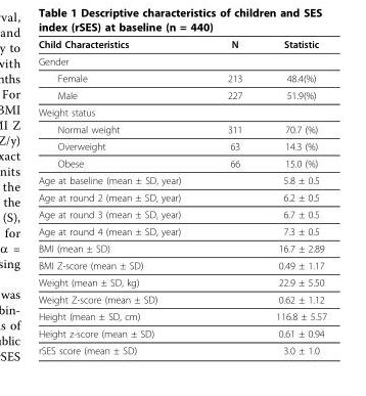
<table><thead><tr><td>Child Characteristics</td><td>N</td><td>Statistic</td></tr></thead><tbody><tr><td colspan="3">Gender</td></tr><tr><td>Female</td><td>213</td><td>48.4(%)</td></tr><tr><td>Male</td><td>227</td><td>51.9(%)</td></tr><tr><td colspan="3">Weight status</td></tr><tr><td>Normal weight</td><td>311</td><td>70.7 (%)</td></tr><tr><td>Overweight</td><td>63</td><td>14.3 (%)</td></tr><tr><td>Obese</td><td>66</td><td>15.0 (%)</td></tr><tr><td>Age at baseline (mean ± SD, year)</td><td></td><td>5.8 ± 0.5</td></tr><tr><td>Age at round 2 (mean ± SD, year)</td><td></td><td>6.2 ± 0.5</td></tr><tr><td>Age at round 3 (mean ± SD, year)</td><td></td><td>6.7 ± 0.5</td></tr><tr><td>Age at round 4 (mean ± SD, year)</td><td></td><td>7.3 ± 0.5</td></tr><tr><td>BMI (mean ± SD)</td><td></td><td>16.7 ± 2.89</td></tr><tr><td>BMI Z-score (mean ± SD)</td><td></td><td>0.49 ± 1.17</td></tr><tr><td>Weight (mean ± SD, kg)</td><td></td><td>22.9 ± 5.50</td></tr><tr><td>Weight Z-score (mean ± SD)</td><td></td><td>0.62 ± 1.12</td></tr><tr><td>Height (mean ± SD, cm)</td><td></td><td>116.8 ± 5.57</td></tr><tr><td>Height z-score (mean ± SD)</td><td></td><td>0.61 ± 0.94</td></tr><tr><td>rSES score (mean ± SD)</td><td></td><td>3.0 ± 1.0</td></tr></tbody></table>